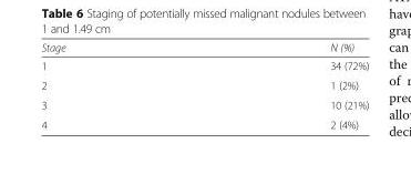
<table><thead><tr><td>Stage</td><td>N (%)</td></tr></thead><tbody><tr><td>1</td><td>34 (72%)</td></tr><tr><td>2</td><td>1 (2%)</td></tr><tr><td>3</td><td>10 (21%)</td></tr><tr><td>4</td><td>2 (4%)</td></tr></tbody></table>